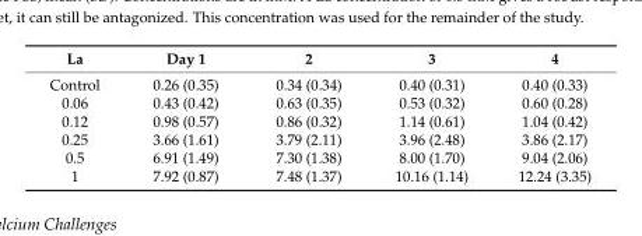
<table><thead><tr><td>La</td><td>Day 1</td><td>2</td><td>3</td><td>4</td></tr></thead><tbody><tr><td>Control</td><td>0.26 (0.35)</td><td>0.34 (0.34)</td><td>0.40 (0.31)</td><td>0.40 (0.33)</td></tr><tr><td>0.06</td><td>0.43 (0.42)</td><td>0.63 (0.35)</td><td>0.53 (0.32)</td><td>0.60 (0.28)</td></tr><tr><td>0.12</td><td>0.98 (0.57)</td><td>0.86 (0.32)</td><td>1.14 (0.61)</td><td>1.04 (0.42)</td></tr><tr><td>0.25</td><td>3.66 (1.61)</td><td>3.79 (2.11)</td><td>3.96 (2.48)</td><td>3.86 (2.17)</td></tr><tr><td>0.5</td><td>6.91 (1.49)</td><td>7.30 (1.38)</td><td>8.00 (1.70)</td><td>9.04 (2.06)</td></tr><tr><td>1</td><td>7.92 (0.87)</td><td>7.48 (1.37)</td><td>10.16 (1.14)</td><td>12.24 (3.35)</td></tr></tbody></table>